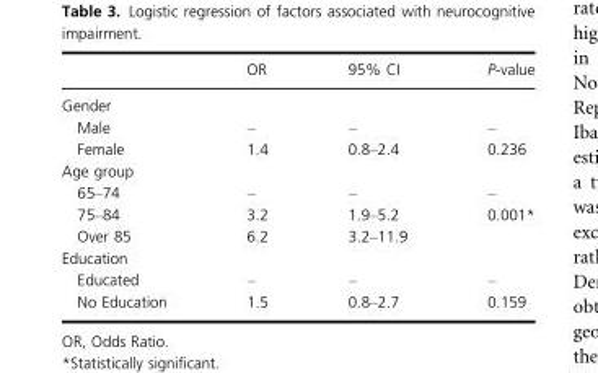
<table><thead><tr><td></td><td>OR</td><td>95% CI</td><td>P-value</td></tr></thead><tbody><tr><td colspan="4">Gender</td></tr><tr><td>Male</td><td>–</td><td>–</td><td>–</td></tr><tr><td>Female</td><td>1.4</td><td>0.8–2.4</td><td>0.236</td></tr><tr><td colspan="4">Age group</td></tr><tr><td>65–74</td><td>–</td><td>–</td><td>–</td></tr><tr><td>75–84</td><td>3.2</td><td>1.9–5.2</td><td>0.001*</td></tr><tr><td>Over 85</td><td>6.2</td><td>3.2–11.9</td><td></td></tr><tr><td colspan="4">Education</td></tr><tr><td>Educated</td><td>–</td><td>–</td><td>–</td></tr><tr><td>No Education</td><td>1.5</td><td>0.8–2.7</td><td>0.159</td></tr></tbody></table>